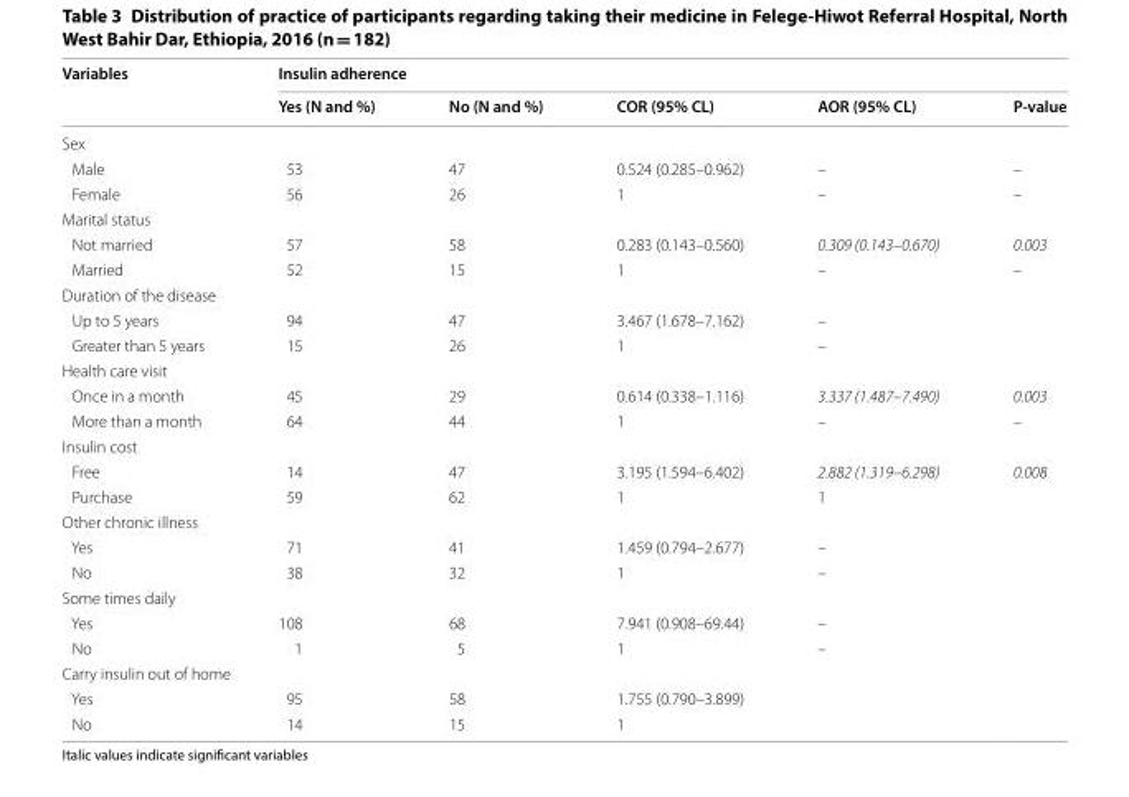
<table><thead><tr><td rowspan="2">Variables</td><td colspan="5">Insulin adherence</td></tr><tr><td>Yes (N and %)</td><td>No (N and %)</td><td>COR (95% CL)</td><td>AOR (95% CL)</td><td>P-value</td></tr></thead><tbody><tr><td colspan="6">Sex</td></tr><tr><td>Male</td><td>53</td><td>47</td><td>0.524 (0.285–0.962)</td><td>–</td><td>–</td></tr><tr><td>Female</td><td>56</td><td>26</td><td>1</td><td>–</td><td>–</td></tr><tr><td colspan="6">Marital status</td></tr><tr><td>Not married</td><td>57</td><td>58</td><td>0.283 (0.143–0.560)</td><td>0.309 (0.143–0.670)</td><td>0.003</td></tr><tr><td>Married</td><td>52</td><td>15</td><td>1</td><td>–</td><td>–</td></tr><tr><td colspan="6">Duration of the disease</td></tr><tr><td>Up to 5 years</td><td>94</td><td>47</td><td>3.467 (1.678–7.162)</td><td>–</td><td></td></tr><tr><td>Greater than 5 years</td><td>15</td><td>26</td><td>1</td><td>–</td><td></td></tr><tr><td colspan="6">Health care visit</td></tr><tr><td>Once in a month</td><td>45</td><td>29</td><td>0.614 (0.338–1.116)</td><td>3.337 (1.487–7.490)</td><td>0.003</td></tr><tr><td>More than a month</td><td>64</td><td>44</td><td>1</td><td>–</td><td>–</td></tr><tr><td colspan="6">Insulin cost</td></tr><tr><td>Free</td><td>14</td><td>47</td><td>3.195 (1.594–6.402)</td><td>2.882 (1.319–6.298)</td><td>0.008</td></tr><tr><td>Purchase</td><td>59</td><td>62</td><td>1</td><td>1</td><td></td></tr><tr><td colspan="6">Other chronic illness</td></tr><tr><td>Yes</td><td>71</td><td>41</td><td>1.459 (0.794–2.677)</td><td>–</td><td></td></tr><tr><td>No</td><td>38</td><td>32</td><td>1</td><td>–</td><td></td></tr><tr><td colspan="6">Some times daily</td></tr><tr><td>Yes</td><td>108</td><td>68</td><td>7.941 (0.908–69.44)</td><td>–</td><td></td></tr><tr><td>No</td><td>1</td><td>5</td><td>1</td><td>–</td><td></td></tr><tr><td colspan="6">Carry insulin out of home</td></tr><tr><td>Yes</td><td>95</td><td>58</td><td>1.755 (0.790–3.899)</td><td></td><td></td></tr><tr><td>No</td><td>14</td><td>15</td><td>1</td><td></td><td></td></tr></tbody></table>